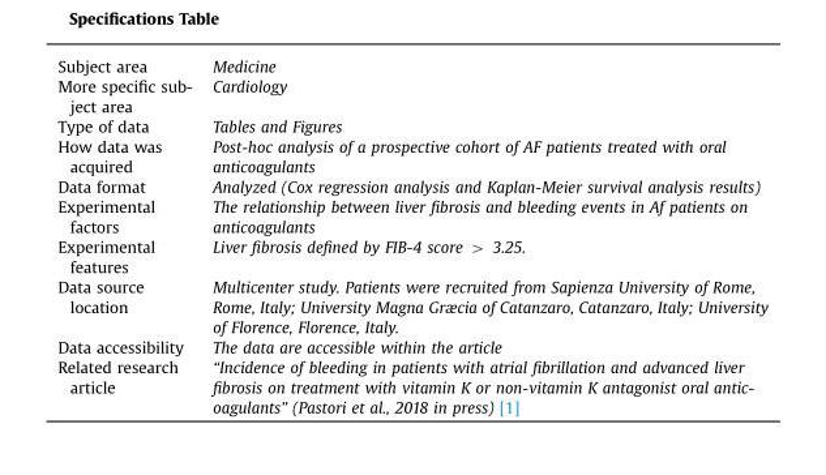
<table><tbody><tr><td>Subject area</td><td>Medicine</td></tr><tr><td>More specific sub- ject area</td><td>Cardiology</td></tr><tr><td>Type of data</td><td>Tables and Figures</td></tr><tr><td>How data was acquired</td><td>Post-hoc analysis of a prospective cohort of AF patients treated with oral anticoagulants</td></tr><tr><td>Data format</td><td>Analyzed (Cox regression analysis and Kaplan-Meier survival analysis results)</td></tr><tr><td>Experimental factors</td><td>The relationship between liver fibrosis and bleeding events in Af patients on anticoagulants</td></tr><tr><td>Experimental features</td><td>Liver fibrosis defined by FIB-4 score &gt; 3.25.</td></tr><tr><td>Data source location</td><td>Multicenter study. Patients were recruited from Sapienza University of Rome, Rome, Italy; University Magna Græcia of Catanzaro, Catanzaro, Italy; University of Florence, Florence, Italy.</td></tr><tr><td>Data accessibility</td><td>The data are accessible within the article</td></tr><tr><td>Related research article</td><td>“Incidence of bleeding in patients with atrial fibrillation and advanced liver fibrosis on treatment with vitamin K or non-vitamin K antagonist oral antic- oagulants” (Pastori et al., 2018 in press) [1]</td></tr></tbody></table>